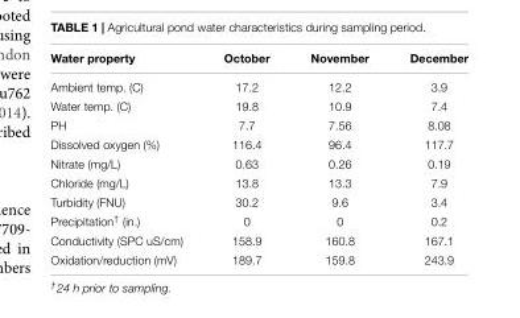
<table><thead><tr><td>Water property</td><td>October</td><td>November</td><td>December</td></tr></thead><tbody><tr><td>Ambient temp. (C)</td><td>17.2</td><td>12.2</td><td>3.9</td></tr><tr><td>Water temp. (C)</td><td>19.8</td><td>10.9</td><td>7.4</td></tr><tr><td>PH</td><td>7.7</td><td>7.56</td><td>8.08</td></tr><tr><td>Dissolved oxygen (%)</td><td>116.4</td><td>96.4</td><td>117.7</td></tr><tr><td>Nitrate (mg/L)</td><td>0.63</td><td>0.26</td><td>0.19</td></tr><tr><td>Chloride (mg/L)</td><td>13.8</td><td>13.3</td><td>7.9</td></tr><tr><td>Turbidity (FNU)</td><td>30.2</td><td>9.6</td><td>3.4</td></tr><tr><td>Precipitation<sup>†</sup> (in.)</td><td>0</td><td>0</td><td>0.2</td></tr><tr><td>Conductivity (SPC uS/cm)</td><td>158.9</td><td>160.8</td><td>167.1</td></tr><tr><td>Oxidation/reduction (mV)</td><td>189.7</td><td>159.8</td><td>243.9</td></tr></tbody></table>